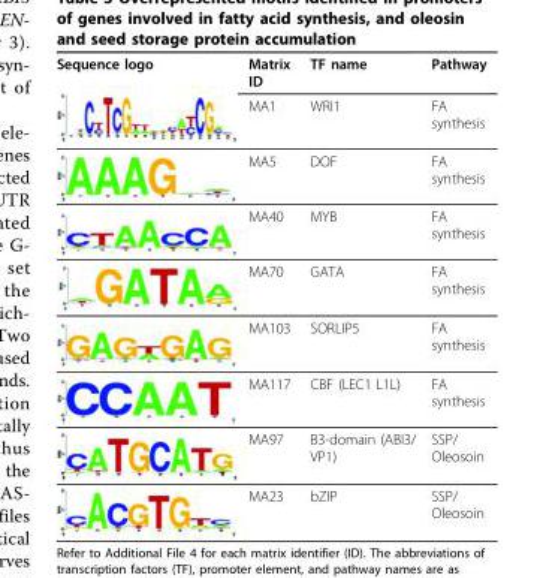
<table><thead><tr><td>Sequence logo</td><td>Matrix ID</td><td>TF name</td><td>Pathway</td></tr></thead><tbody><tr><td></td><td>MA1</td><td>WRI1</td><td>FA synthesis</td></tr><tr><td></td><td>MA5</td><td>DOF</td><td>FA synthesis</td></tr><tr><td></td><td>MA40</td><td>MYB</td><td>FA synthesis</td></tr><tr><td></td><td>MA70</td><td>GATA</td><td>FA synthesis</td></tr><tr><td></td><td>MA103</td><td>SORLIP5</td><td>FA synthesis</td></tr><tr><td></td><td>MA117</td><td>CBF (LEC1 L1L)</td><td>FA synthesis</td></tr><tr><td></td><td>MA97</td><td>B3-domain (ABI3/ VP1)</td><td>SSP/ Oleosoin</td></tr><tr><td></td><td>MA23</td><td>bZIP</td><td>SSP/ Oleosoin</td></tr></tbody></table>